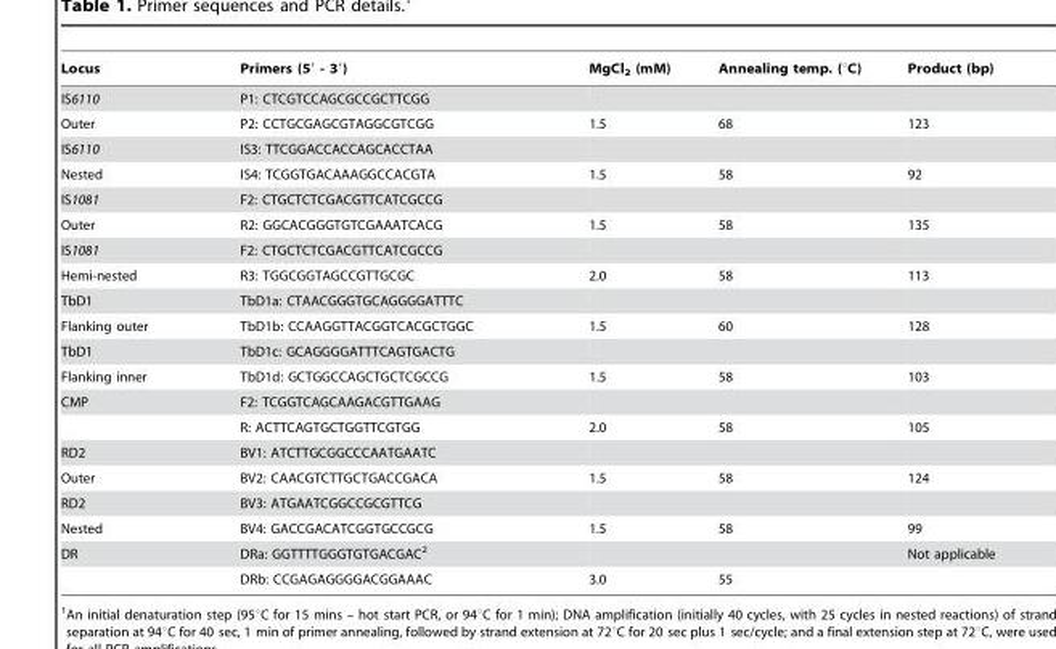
<table><thead><tr><td>Locus</td><td>Primers (5′ - 3′)</td><td>MgCl<sub>2</sub> (mM)</td><td>Annealing temp. (°C)</td><td>Product (bp)</td></tr></thead><tbody><tr><td>IS6110</td><td>P1: CTCGTCCAGCGCCGCTTCGG</td><td></td><td></td><td></td></tr><tr><td>Outer</td><td>P2: CCTGCGAGCGTAGGCGTCGG</td><td>1.5</td><td>68</td><td>123</td></tr><tr><td>IS6110</td><td>IS3: TTCGGACCACCAGCACCTAA</td><td></td><td></td><td></td></tr><tr><td>Nested</td><td>IS4: TCGGTGACAAAGGCCACGTA</td><td>1.5</td><td>58</td><td>92</td></tr><tr><td>IS1081</td><td>F2: CTGCTCTCGACGTTCATCGCCG</td><td></td><td></td><td></td></tr><tr><td>Outer</td><td>R2: GGCACGGGTGTCGAAATCACG</td><td>1.5</td><td>58</td><td>135</td></tr><tr><td>IS1081</td><td>F2: CTGCTCTCGACGTTCATCGCCG</td><td></td><td></td><td></td></tr><tr><td>Hemi-nested</td><td>R3: TGGCGGTAGCCGTTGCGC</td><td>2.0</td><td>58</td><td>113</td></tr><tr><td>TbD1</td><td>TbD1a: CTAACGGGTGCAGGGGATTTC</td><td></td><td></td><td></td></tr><tr><td>Flanking outer</td><td>TbD1b: CCAAGGTTACGGTCACGCTGGC</td><td>1.5</td><td>60</td><td>128</td></tr><tr><td>TbD1</td><td>TbD1c: GCAGGGGATTTCAGTGACTG</td><td></td><td></td><td></td></tr><tr><td>Flanking inner</td><td>TbD1d: GCTGGCCAGCTGCTCGCCG</td><td>1.5</td><td>58</td><td>103</td></tr><tr><td rowspan="2">CMP</td><td>F2: TCGGTCAGCAAGACGTTGAAG</td><td></td><td></td><td></td></tr><tr><td>R: ACTTCAGTGCTGGTTCGTGG</td><td>2.0</td><td>58</td><td>105</td></tr><tr><td>RD2</td><td>BV1: ATCTTGCGGCCCAATGAATC</td><td></td><td></td><td></td></tr><tr><td>Outer</td><td>BV2: CAACGTCTTGCTGACCGACA</td><td>1.5</td><td>58</td><td>124</td></tr><tr><td>RD2</td><td>BV3: ATGAATCGGCCGCGTTCG</td><td></td><td></td><td></td></tr><tr><td>Nested</td><td>BV4: GACCGACATCGGTGCCGCG</td><td>1.5</td><td>58</td><td>99</td></tr><tr><td rowspan="2">DR</td><td>DRa: GGTTTTGGGTGTGACGAC2</td><td></td><td></td><td>Not applicable</td></tr><tr><td>DRb: CCGAGAGGGGACGGAAAC</td><td>3.0</td><td>55</td><td></td></tr></tbody></table>